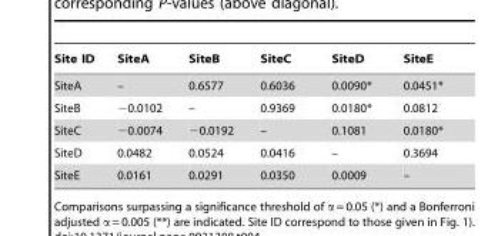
<table><thead><tr><td>Site ID</td><td>SiteA</td><td>SiteB</td><td>SiteC</td><td>SiteD</td><td>SiteE</td></tr></thead><tbody><tr><td>SiteA</td><td>–</td><td>0.6577</td><td>0.6036</td><td>0.0090*</td><td>0.0451*</td></tr><tr><td>SiteB</td><td>−0.0102</td><td>–</td><td>0.9369</td><td>0.0180*</td><td>0.0812</td></tr><tr><td>SiteC</td><td>−0.0074</td><td>−0.0192</td><td>–</td><td>0.1081</td><td>0.0180*</td></tr><tr><td>SiteD</td><td>0.0482</td><td>0.0524</td><td>0.0416</td><td>–</td><td>0.3694</td></tr><tr><td>SiteE</td><td>0.0161</td><td>0.0291</td><td>0.0350</td><td>0.0009</td><td>–</td></tr></tbody></table>